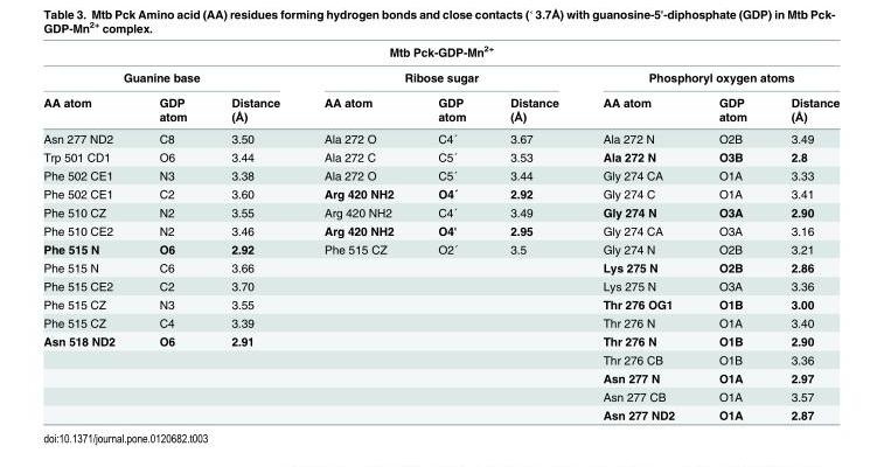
<table><thead><tr><td colspan="9">Mtb Pck-GDP-Mn<sup>2+</sup></td></tr><tr><td colspan="3">Guanine base</td><td colspan="3">Ribose sugar</td><td colspan="3">Phosphoryl oxygen atoms</td></tr><tr><td rowspan="2">AA atom</td><td rowspan="2">GDP atom</td><td rowspan="2">Distance (Å)</td><td rowspan="2">AA atom</td><td rowspan="2">GDP atom</td><td rowspan="2">Distance (Å)</td><td rowspan="2">AA atom</td><td rowspan="2">GDP atom</td><td rowspan="2">Distance (Å)</td></tr><tr></tr></thead><tbody><tr><td>Asn 277 ND2</td><td>C8</td><td>3.50</td><td>Ala 272 O</td><td>C4´</td><td>3.67</td><td>Ala 272 N</td><td>O2B</td><td>3.49</td></tr><tr><td>Trp 501 CD1</td><td>O6</td><td>3.44</td><td>Ala 272 C</td><td>C5´</td><td>3.53</td><td>Ala 272 N</td><td>O3B</td><td>2.8</td></tr><tr><td>Phe 502 CE1</td><td>N3</td><td>3.38</td><td>Ala 272 O</td><td>C5´</td><td>3.44</td><td>Gly 274 CA</td><td>O1A</td><td>3.33</td></tr><tr><td>Phe 502 CE1</td><td>C2</td><td>3.60</td><td>Arg 420 NH2</td><td>O4´</td><td>2.92</td><td>Gly 274 C</td><td>O1A</td><td>3.41</td></tr><tr><td>Phe 510 CZ</td><td>N2</td><td>3.55</td><td>Arg 420 NH2</td><td>C4´</td><td>3.49</td><td>Gly 274 N</td><td>O3A</td><td>2.90</td></tr><tr><td>Phe 510 CE2</td><td>N2</td><td>3.46</td><td>Arg 420 NH2</td><td>O4&#x27;</td><td>2.95</td><td>Gly 274 CA</td><td>O3A</td><td>3.16</td></tr><tr><td>Phe 515 N</td><td>O6</td><td>2.92</td><td>Phe 515 CZ</td><td>O2´</td><td>3.5</td><td>Gly 274 N</td><td>O2B</td><td>3.21</td></tr><tr><td>Phe 515 N</td><td>C6</td><td>3.66</td><td></td><td></td><td></td><td>Lys 275 N</td><td>O2B</td><td>2.86</td></tr><tr><td>Phe 515 CE2</td><td>C2</td><td>3.70</td><td></td><td></td><td></td><td>Lys 275 N</td><td>O3A</td><td>3.36</td></tr><tr><td>Phe 515 CZ</td><td>N3</td><td>3.55</td><td></td><td></td><td></td><td>Thr 276 OG1</td><td>O1B</td><td>3.00</td></tr><tr><td>Phe 515 CZ</td><td>C4</td><td>3.39</td><td></td><td></td><td></td><td>Thr 276 N</td><td>O1A</td><td>3.40</td></tr><tr><td rowspan="5">Asn 518 ND2</td><td>O6</td><td>2.91</td><td></td><td></td><td></td><td>Thr 276 N</td><td>O1B</td><td>2.90</td></tr><tr><td></td><td></td><td></td><td></td><td></td><td>Thr 276 CB</td><td>O1B</td><td>3.36</td></tr><tr><td></td><td></td><td></td><td></td><td></td><td>Asn 277 N</td><td>O1A</td><td>2.97</td></tr><tr><td></td><td></td><td></td><td></td><td></td><td>Asn 277 CB</td><td>O1A</td><td>3.57</td></tr><tr><td></td><td></td><td></td><td></td><td></td><td>Asn 277 ND2</td><td>O1A</td><td>2.87</td></tr></tbody></table>